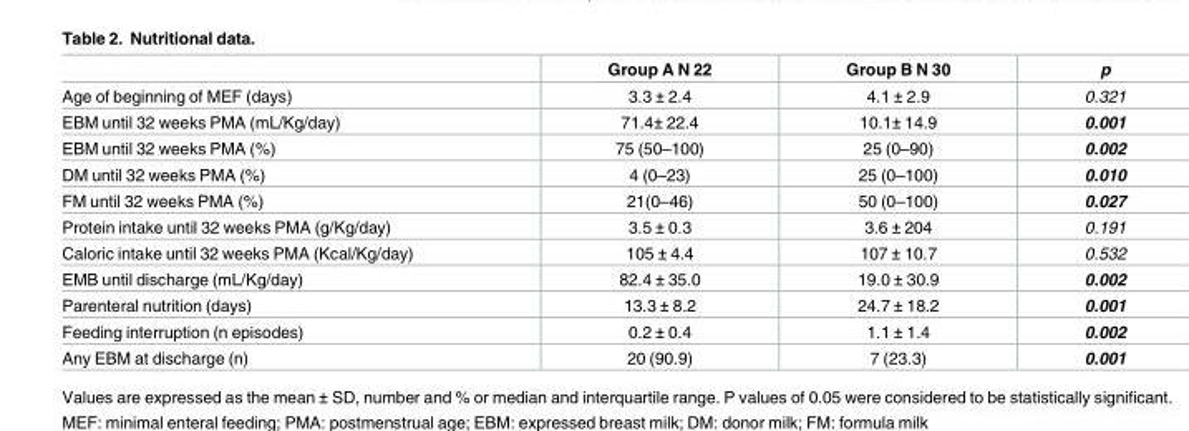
<table><thead><tr><td></td><td>Group A N 22</td><td>Group B N 30</td><td>p</td></tr></thead><tbody><tr><td>Age of beginning of MEF (days)</td><td>3.3 ± 2.4</td><td>4.1 ± 2.9</td><td>0.321</td></tr><tr><td>EBM until 32 weeks PMA (mL/Kg/day)</td><td>71.4± 22.4</td><td>10.1± 14.9</td><td>0.001</td></tr><tr><td>EBM until 32 weeks PMA (%)</td><td>75 (50–100)</td><td>25 (0–90)</td><td>0.002</td></tr><tr><td>DM until 32 weeks PMA (%)</td><td>4 (0–23)</td><td>25 (0–100)</td><td>0.010</td></tr><tr><td>FM until 32 weeks PMA (%)</td><td>21(0–46)</td><td>50 (0–100)</td><td>0.027</td></tr><tr><td>Protein intake until 32 weeks PMA (g/Kg/day)</td><td>3.5 ± 0.3</td><td>3.6 ± 204</td><td>0.191</td></tr><tr><td>Caloric intake until 32 weeks PMA (Kcal/Kg/day)</td><td>105 ± 4.4</td><td>107 ± 10.7</td><td>0.532</td></tr><tr><td>EMB until discharge (mL/Kg/day)</td><td>82.4 ± 35.0</td><td>19.0 ± 30.9</td><td>0.002</td></tr><tr><td>Parenteral nutrition (days)</td><td>13.3 ± 8.2</td><td>24.7 ± 18.2</td><td>0.001</td></tr><tr><td>Feeding interruption (n episodes)</td><td>0.2 ± 0.4</td><td>1.1 ± 1.4</td><td>0.002</td></tr><tr><td>Any EBM at discharge (n)</td><td>20 (90.9)</td><td>7 (23.3)</td><td>0.001</td></tr></tbody></table>